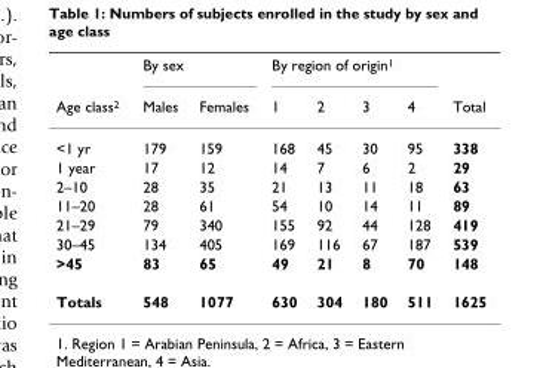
<table><thead><tr><td rowspan="2">Age class<sup>2</sup></td><td colspan="2">By sex</td><td colspan="4">By region of origin<sup>1</sup></td><td rowspan="2">Total</td></tr><tr><td>Males</td><td>Females</td><td>1</td><td>2</td><td>3</td><td>4</td></tr></thead><tbody><tr><td>&lt;1 yr</td><td>179</td><td>159</td><td>168</td><td>45</td><td>30</td><td>95</td><td>338</td></tr><tr><td>1 year</td><td>17</td><td>12</td><td>14</td><td>7</td><td>6</td><td>2</td><td>29</td></tr><tr><td>2–10</td><td>28</td><td>35</td><td>21</td><td>13</td><td>11</td><td>18</td><td>63</td></tr><tr><td>11–20</td><td>28</td><td>61</td><td>54</td><td>10</td><td>14</td><td>11</td><td>89</td></tr><tr><td>21–29</td><td>79</td><td>340</td><td>155</td><td>92</td><td>44</td><td>128</td><td>419</td></tr><tr><td>30–45</td><td>134</td><td>405</td><td>169</td><td>116</td><td>67</td><td>187</td><td>539</td></tr><tr><td>&gt;45</td><td>83</td><td>65</td><td>49</td><td>21</td><td>8</td><td>70</td><td>148</td></tr><tr><td>Totals</td><td>548</td><td>1077</td><td>630</td><td>304</td><td>180</td><td>511</td><td>1625</td></tr></tbody></table>